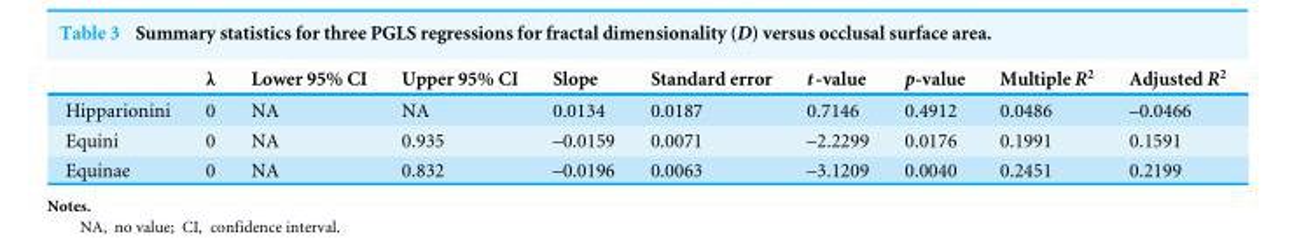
<table><thead><tr><td></td><td>λ</td><td>Lower 95% CI</td><td>Upper 95% CI</td><td>Slope</td><td>Standard error</td><td>t-value</td><td>p-value</td><td>Multiple R<sup>2</sup></td><td>Adjusted R<sup>2</sup></td></tr></thead><tbody><tr><td>Hipparionini</td><td>0</td><td>NA</td><td>NA</td><td>0.0134</td><td>0.0187</td><td>0.7146</td><td>0.4912</td><td>0.0486</td><td>–0.0466</td></tr><tr><td>Equini</td><td>0</td><td>NA</td><td>0.935</td><td>–0.0159</td><td>0.0071</td><td>–2.2299</td><td>0.0176</td><td>0.1991</td><td>0.1591</td></tr><tr><td>Equinae</td><td>0</td><td>NA</td><td>0.832</td><td>–0.0196</td><td>0.0063</td><td>–3.1209</td><td>0.0040</td><td>0.2451</td><td>0.2199</td></tr></tbody></table>